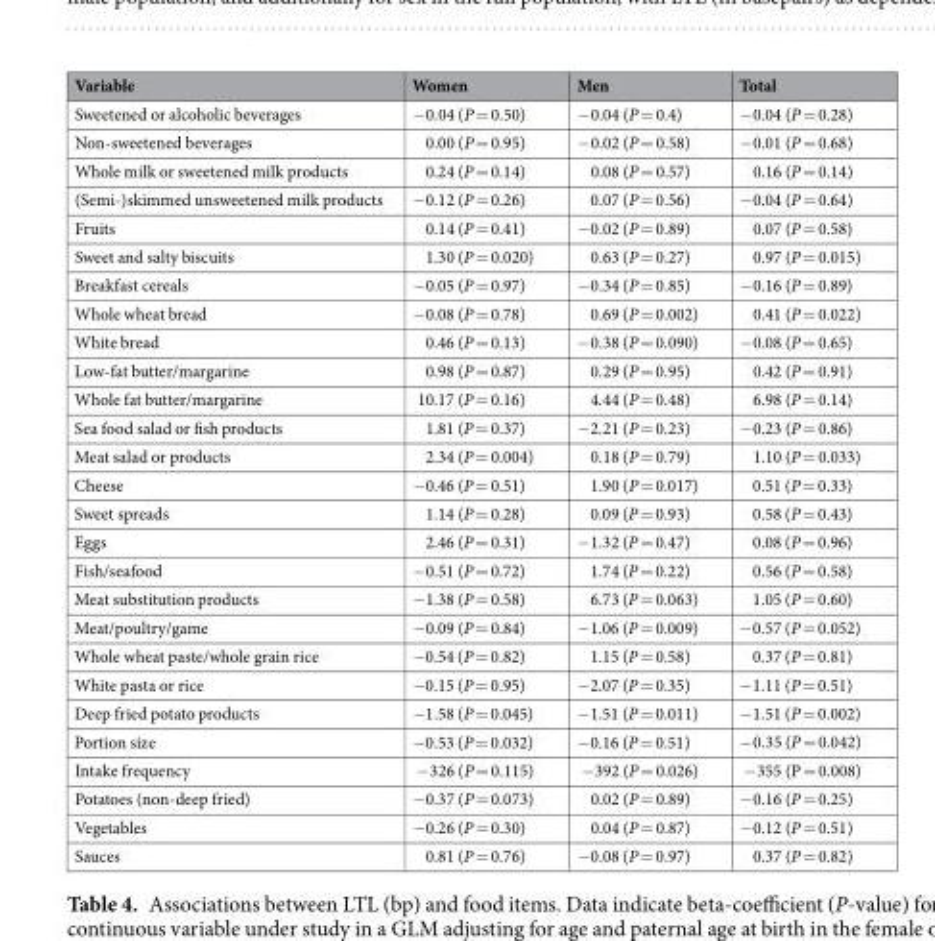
<table><thead><tr><td>Variable</td><td>Women</td><td>Men</td><td>Total</td></tr></thead><tbody><tr><td>Sweetened or alcoholic beverages</td><td>−0.04 (P = 0.50)</td><td>−0.04 (P = 0.4)</td><td>−0.04 (P = 0.28)</td></tr><tr><td>Non-sweetened beverages</td><td>0.00 (P = 0.95)</td><td>−0.02 (P = 0.58)</td><td>−0.01 (P = 0.68)</td></tr><tr><td>Whole milk or sweetened milk products</td><td>0.24 (P = 0.14)</td><td>0.08 (P = 0.57)</td><td>0.16 (P = 0.14)</td></tr><tr><td>(Semi-)skimmed unsweetened milk products</td><td>−0.12 (P = 0.26)</td><td>0.07 (P = 0.56)</td><td>−0.04 (P = 0.64)</td></tr><tr><td>Fruits</td><td>0.14 (P = 0.41)</td><td>−0.02 (P = 0.89)</td><td>0.07 (P = 0.58)</td></tr><tr><td>Sweet and salty biscuits</td><td>1.30 (P = 0.020)</td><td>0.63 (P = 0.27)</td><td>0.97 (P = 0.015)</td></tr><tr><td>Breakfast cereals</td><td>−0.05 (P = 0.97)</td><td>−0.34 (P = 0.85)</td><td>−0.16 (P = 0.89)</td></tr><tr><td>Whole wheat bread</td><td>−0.08 (P = 0.78)</td><td>0.69 (P = 0.002)</td><td>0.41 (P = 0.022)</td></tr><tr><td>White bread</td><td>0.46 (P = 0.13)</td><td>−0.38 (P = 0.090)</td><td>−0.08 (P = 0.65)</td></tr><tr><td>Low-fat butter/margarine</td><td>0.98 (P = 0.87)</td><td>0.29 (P = 0.95)</td><td>0.42 (P = 0.91)</td></tr><tr><td>Whole fat butter/margarine</td><td>10.17 (P = 0.16)</td><td>4.44 (P = 0.48)</td><td>6.98 (P = 0.14)</td></tr><tr><td>Sea food salad or fish products</td><td>1.81 (P = 0.37)</td><td>−2.21 (P = 0.23)</td><td>−0.23 (P = 0.86)</td></tr><tr><td>Meat salad or products</td><td>2.34 (P = 0.004)</td><td>0.18 (P = 0.79)</td><td>1.10 (P = 0.033)</td></tr><tr><td>Cheese</td><td>−0.46 (P = 0.51)</td><td>1.90 (P = 0.017)</td><td>0.51 (P = 0.33)</td></tr><tr><td>Sweet spreads</td><td>1.14 (P = 0.28)</td><td>0.09 (P = 0.93)</td><td>0.58 (P = 0.43)</td></tr><tr><td>Eggs</td><td>2.46 (P = 0.31)</td><td>−1.32 (P = 0.47)</td><td>0.08 (P = 0.96)</td></tr><tr><td>Fish/seafood</td><td>−0.51 (P = 0.72)</td><td>1.74 (P = 0.22)</td><td>0.56 (P = 0.58)</td></tr><tr><td>Meat substitution products</td><td>−1.38 (P = 0.58)</td><td>6.73 (P = 0.063)</td><td>1.05 (P = 0.60)</td></tr><tr><td>Meat/poultry/game</td><td>−0.09 (P = 0.84)</td><td>−1.06 (P = 0.009)</td><td>−0.57 (P = 0.052)</td></tr><tr><td>Whole wheat paste/whole grain rice</td><td>−0.54 (P = 0.82)</td><td>1.15 (P = 0.58)</td><td>0.37 (P = 0.81)</td></tr><tr><td>White pasta or rice</td><td>−0.15 (P = 0.95)</td><td>−2.07 (P = 0.35)</td><td>−1.11 (P = 0.51)</td></tr><tr><td>Deep fried potato products</td><td>−1.58 (P = 0.045)</td><td>−1.51 (P = 0.011)</td><td>−1.51 (P = 0.002)</td></tr><tr><td>Portion size</td><td>−0.53 (P = 0.032)</td><td>−0.16 (P = 0.51)</td><td>−0.35 (P = 0.042)</td></tr><tr><td>Intake frequency</td><td>−326 (P = 0.115)</td><td>−392 (P = 0.026)</td><td>−355 (P = 0.008)</td></tr><tr><td>Potatoes (non-deep fried)</td><td>−0.37 (P = 0.073)</td><td>0.02 (P = 0.89)</td><td>−0.16 (P = 0.25)</td></tr><tr><td>Vegetables</td><td>−0.26 (P = 0.30)</td><td>0.04 (P = 0.87)</td><td>−0.12 (P = 0.51)</td></tr><tr><td>Sauces</td><td>0.81 (P = 0.76)</td><td>−0.08 (P = 0.97)</td><td>0.37 (P = 0.82)</td></tr></tbody></table>